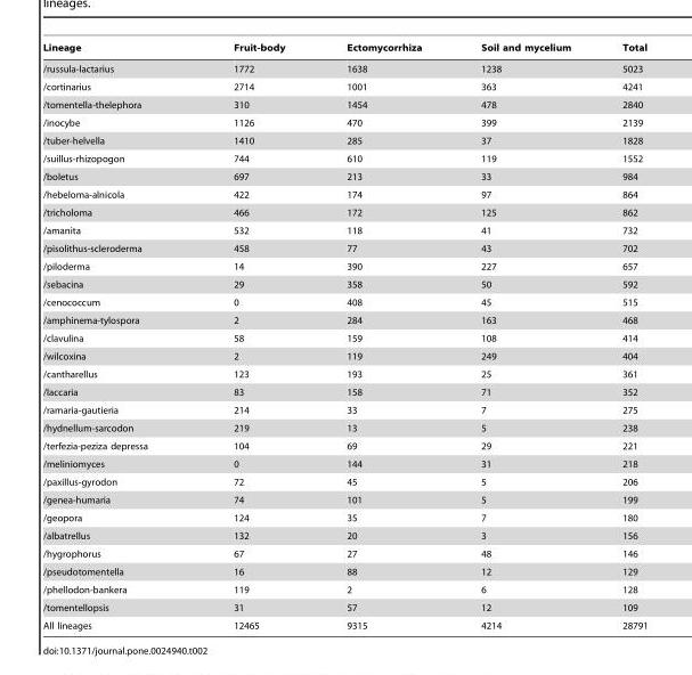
<table><thead><tr><td>Lineage</td><td>Fruit-body</td><td>Ectomycorrhiza</td><td>Soil and mycelium</td><td>Total</td></tr></thead><tbody><tr><td>/russula-lactarius</td><td>1772</td><td>1638</td><td>1238</td><td>5023</td></tr><tr><td>/cortinarius</td><td>2714</td><td>1001</td><td>363</td><td>4241</td></tr><tr><td>/tomentella-thelephora</td><td>310</td><td>1454</td><td>478</td><td>2840</td></tr><tr><td>/inocybe</td><td>1126</td><td>470</td><td>399</td><td>2139</td></tr><tr><td>/tuber-helvella</td><td>1410</td><td>285</td><td>37</td><td>1828</td></tr><tr><td>/suillus-rhizopogon</td><td>744</td><td>610</td><td>119</td><td>1552</td></tr><tr><td>/boletus</td><td>697</td><td>213</td><td>33</td><td>984</td></tr><tr><td>/hebeloma-alnicola</td><td>422</td><td>174</td><td>97</td><td>864</td></tr><tr><td>/tricholoma</td><td>466</td><td>172</td><td>125</td><td>862</td></tr><tr><td>/amanita</td><td>532</td><td>118</td><td>41</td><td>732</td></tr><tr><td>/pisolithus-scleroderma</td><td>458</td><td>77</td><td>43</td><td>702</td></tr><tr><td>/piloderma</td><td>14</td><td>390</td><td>227</td><td>657</td></tr><tr><td>/sebacina</td><td>29</td><td>358</td><td>50</td><td>592</td></tr><tr><td>/cenococcum</td><td>0</td><td>408</td><td>45</td><td>515</td></tr><tr><td>/amphinema-tylospora</td><td>2</td><td>284</td><td>163</td><td>468</td></tr><tr><td>/clavulina</td><td>58</td><td>159</td><td>108</td><td>414</td></tr><tr><td>/wilcoxina</td><td>2</td><td>119</td><td>249</td><td>404</td></tr><tr><td>/cantharellus</td><td>123</td><td>193</td><td>25</td><td>361</td></tr><tr><td>/laccaria</td><td>83</td><td>158</td><td>71</td><td>352</td></tr><tr><td>/ramaria-gautieria</td><td>214</td><td>33</td><td>7</td><td>275</td></tr><tr><td>/hydnellum-sarcodon</td><td>219</td><td>13</td><td>5</td><td>238</td></tr><tr><td>/terfezia-peziza depressa</td><td>104</td><td>69</td><td>29</td><td>221</td></tr><tr><td>/meliniomyces</td><td>0</td><td>144</td><td>31</td><td>218</td></tr><tr><td>/paxillus-gyrodon</td><td>72</td><td>45</td><td>5</td><td>206</td></tr><tr><td>/genea-humaria</td><td>74</td><td>101</td><td>5</td><td>199</td></tr><tr><td>/geopora</td><td>124</td><td>35</td><td>7</td><td>180</td></tr><tr><td>/albatrellus</td><td>132</td><td>20</td><td>3</td><td>156</td></tr><tr><td>/hygrophorus</td><td>67</td><td>27</td><td>48</td><td>146</td></tr><tr><td>/pseudotomentella</td><td>16</td><td>88</td><td>12</td><td>129</td></tr><tr><td>/phellodon-bankera</td><td>119</td><td>2</td><td>6</td><td>128</td></tr><tr><td>/tomentellopsis</td><td>31</td><td>57</td><td>12</td><td>109</td></tr><tr><td>All lineages</td><td>12465</td><td>9315</td><td>4214</td><td>28791</td></tr></tbody></table>